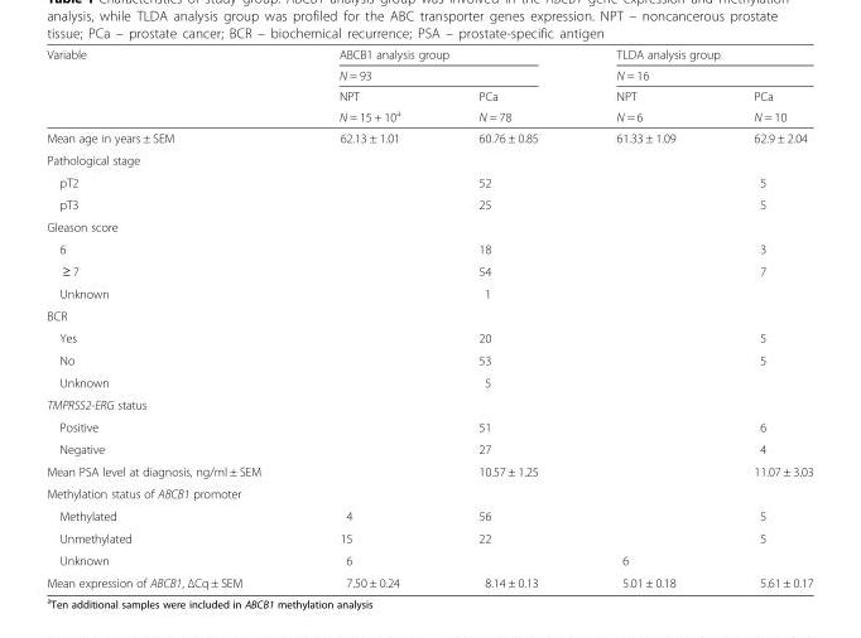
<table><thead><tr><td rowspan="4">Variable</td><td rowspan="2" colspan="2">ABCB1 analysis group N = 93</td><td rowspan="2" colspan="2">TLDA analysis group N = 16</td></tr><tr></tr><tr><td rowspan="2">NPT N = 15 + 10<sup>a</sup></td><td rowspan="2">PCa N = 78</td><td rowspan="2">NPT N = 6</td><td rowspan="2">PCa N = 10</td></tr><tr></tr></thead><tbody><tr><td>Mean age in years ± SEM</td><td>62.13 ± 1.01</td><td>60.76 ± 0.85</td><td>61.33 ± 1.09</td><td>62.9 ± 2.04</td></tr><tr><td colspan="5">Pathological stage</td></tr><tr><td>pT2</td><td></td><td>52</td><td></td><td>5</td></tr><tr><td>pT3</td><td></td><td>25</td><td></td><td>5</td></tr><tr><td colspan="5">Gleason score</td></tr><tr><td>6</td><td></td><td>18</td><td></td><td>3</td></tr><tr><td>≥ 7</td><td></td><td>54</td><td></td><td>7</td></tr><tr><td>Unknown</td><td></td><td>1</td><td></td><td></td></tr><tr><td colspan="5">BCR</td></tr><tr><td>Yes</td><td></td><td>20</td><td></td><td>5</td></tr><tr><td>No</td><td></td><td>53</td><td></td><td>5</td></tr><tr><td>Unknown</td><td></td><td>5</td><td></td><td></td></tr><tr><td colspan="5">TMPRSS2-ERG status</td></tr><tr><td>Positive</td><td></td><td>51</td><td></td><td>6</td></tr><tr><td>Negative</td><td></td><td>27</td><td></td><td>4</td></tr><tr><td>Mean PSA level at diagnosis, ng/ml ± SEM</td><td></td><td>10.57 ± 1.25</td><td></td><td>11.07 ± 3.03</td></tr><tr><td colspan="5">Methylation status of ABCB1 promoter</td></tr><tr><td>Methylated</td><td>4</td><td>56</td><td></td><td>5</td></tr><tr><td>Unmethylated</td><td>15</td><td>22</td><td></td><td>5</td></tr><tr><td>Unknown</td><td>6</td><td></td><td>6</td><td></td></tr><tr><td>Mean expression of ABCB1, ΔCq ± SEM</td><td>7.50 ± 0.24</td><td>8.14 ± 0.13</td><td>5.01 ± 0.18</td><td>5.61 ± 0.17</td></tr></tbody></table>